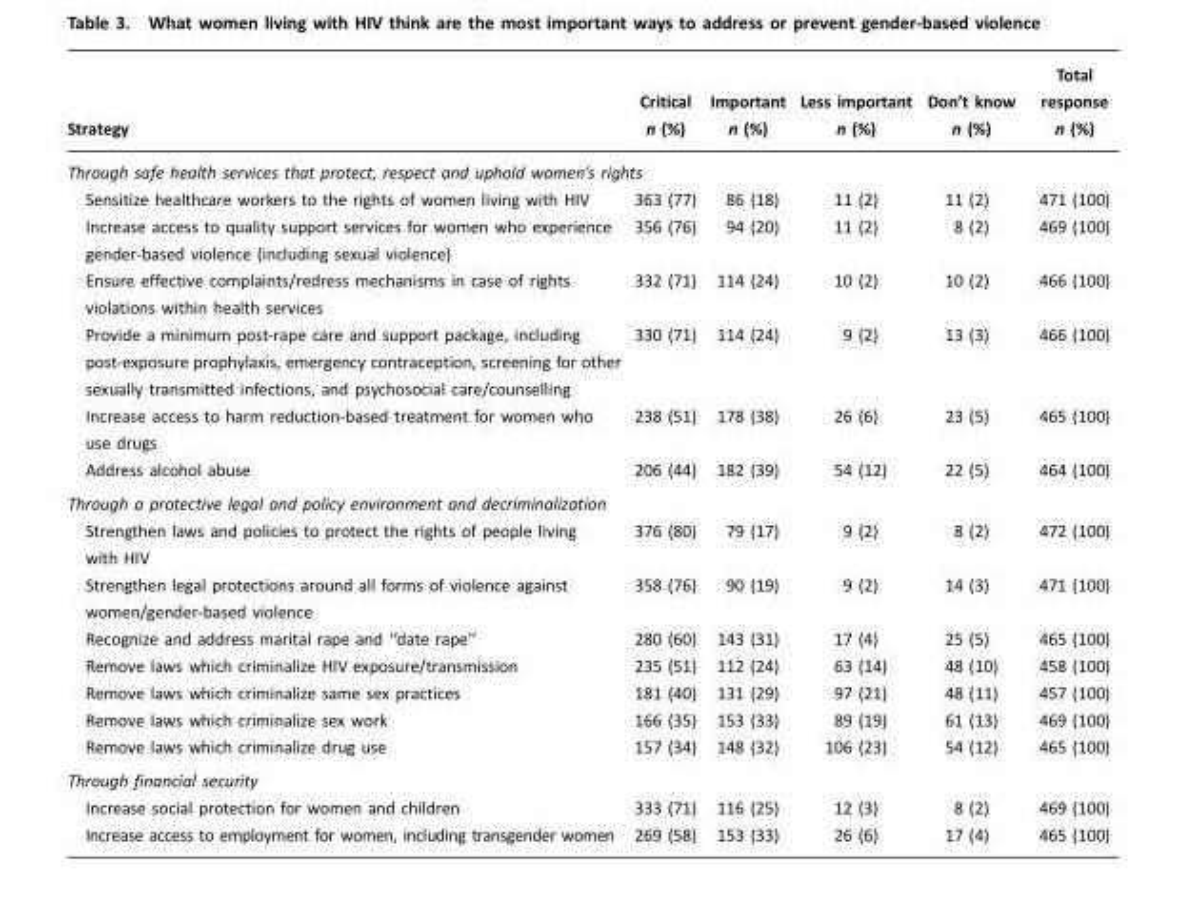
<table><thead><tr><td>Strategy</td><td>Critical n (%)</td><td>Important n (%)</td><td>Less important n (%)</td><td>Don’t know n (%)</td><td>Total response n (%)</td></tr></thead><tbody><tr><td colspan="6">Through safe health services that protect, respect and uphold women’s rights</td></tr><tr><td>Sensitize healthcare workers to the rights of women living with HIV</td><td>363 (77)</td><td>86 (18)</td><td>11 (2)</td><td>11 (2)</td><td>471 (100)</td></tr><tr><td>Increase access to quality support services for women who experience gender-based violence (including sexual violence)</td><td>356 (76)</td><td>94 (20)</td><td>11 (2)</td><td>8 (2)</td><td>469 (100)</td></tr><tr><td>Ensure effective complaints/redress mechanisms in case of rights violations within health services</td><td>332 (71)</td><td>114 (24)</td><td>10 (2)</td><td>10 (2)</td><td>466 (100)</td></tr><tr><td>Provide a minimum post-rape care and support package, including post-exposure prophylaxis, emergency contraception, screening for other sexually transmitted infections, and psychosocial care/counselling</td><td>330 (71)</td><td>114 (24)</td><td>9 (2)</td><td>13 (3)</td><td>466 (100)</td></tr><tr><td>Increase access to harm reduction-based treatment for women who use drugs</td><td>238 (51)</td><td>178 (38)</td><td>26 (6)</td><td>23 (5)</td><td>465 (100)</td></tr><tr><td>Address alcohol abuse</td><td>206 (44)</td><td>182 (39)</td><td>54 (12)</td><td>22 (5)</td><td>464 (100)</td></tr><tr><td colspan="6">Through a protective legal and policy environment and decriminalization</td></tr><tr><td>Strengthen laws and policies to protect the rights of people living with HIV</td><td>376 (80)</td><td>79 (17)</td><td>9 (2)</td><td>8 (2)</td><td>472 (100)</td></tr><tr><td>Strengthen legal protections around all forms of violence against women/gender-based violence</td><td>358 (76)</td><td>90 (19)</td><td>9 (2)</td><td>14 (3)</td><td>471 (100)</td></tr><tr><td>Recognize and address marital rape and ‘‘date rape’’</td><td>280 (60)</td><td>143 (31)</td><td>17 (4)</td><td>25 (5)</td><td>465 (100)</td></tr><tr><td>Remove laws which criminalize HIV exposure/transmission</td><td>235 (51)</td><td>112 (24)</td><td>63 (14)</td><td>48 (10)</td><td>458 (100)</td></tr><tr><td>Remove laws which criminalize same sex practices</td><td>181 (40)</td><td>131 (29)</td><td>97 (21)</td><td>48 (11)</td><td>457 (100)</td></tr><tr><td>Remove laws which criminalize sex work</td><td>166 (35)</td><td>153 (33)</td><td>89 (19)</td><td>61 (13)</td><td>469 (100)</td></tr><tr><td>Remove laws which criminalize drug use</td><td>157 (34)</td><td>148 (32)</td><td>106 (23)</td><td>54 (12)</td><td>465 (100)</td></tr><tr><td colspan="6">Through financial security</td></tr><tr><td>Increase social protection for women and children</td><td>333 (71)</td><td>116 (25)</td><td>12 (3)</td><td>8 (2)</td><td>469 (100)</td></tr><tr><td>Increase access to employment for women, including transgender women</td><td>269 (58)</td><td>153 (33)</td><td>26 (6)</td><td>17 (4)</td><td>465 (100)</td></tr></tbody></table>